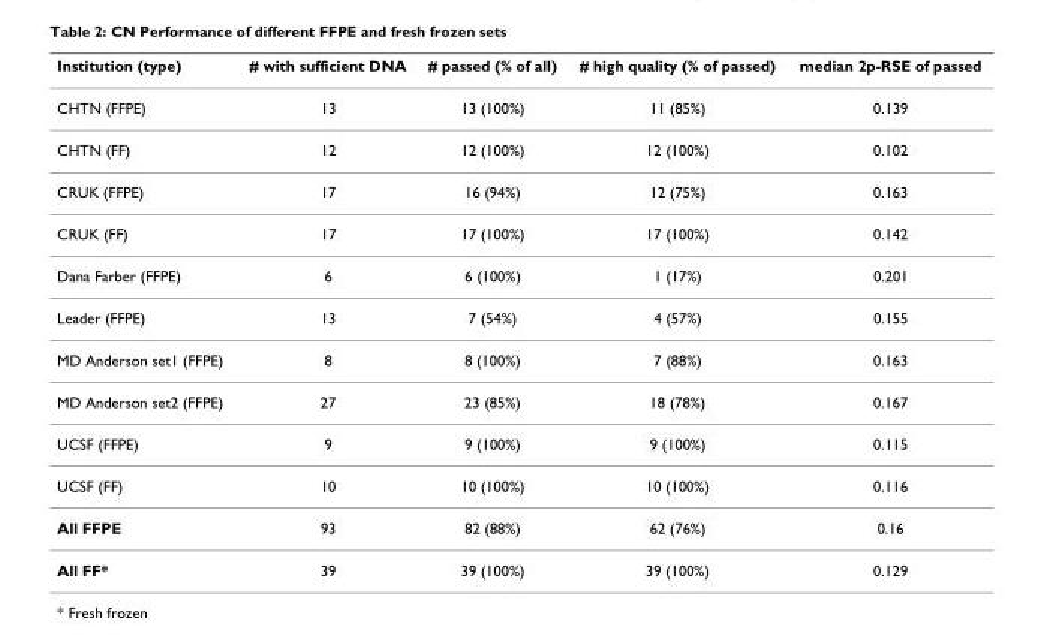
<table><thead><tr><td>Institution (type)</td><td># with sufficient DNA</td><td># passed (% of all)</td><td># high quality (% of passed)</td><td>median 2p-RSE of passed</td></tr></thead><tbody><tr><td>CHTN (FFPE)</td><td>13</td><td>13 (100%)</td><td>11 (85%)</td><td>0.139</td></tr><tr><td>CHTN (FF)</td><td>12</td><td>12 (100%)</td><td>12 (100%)</td><td>0.102</td></tr><tr><td>CRUK (FFPE)</td><td>17</td><td>16 (94%)</td><td>12 (75%)</td><td>0.163</td></tr><tr><td>CRUK (FF)</td><td>17</td><td>17 (100%)</td><td>17 (100%)</td><td>0.142</td></tr><tr><td>Dana Farber (FFPE)</td><td>6</td><td>6 (100%)</td><td>1 (17%)</td><td>0.201</td></tr><tr><td>Leader (FFPE)</td><td>13</td><td>7 (54%)</td><td>4 (57%)</td><td>0.155</td></tr><tr><td>MD Anderson set1 (FFPE)</td><td>8</td><td>8 (100%)</td><td>7 (88%)</td><td>0.163</td></tr><tr><td>MD Anderson set2 (FFPE)</td><td>27</td><td>23 (85%)</td><td>18 (78%)</td><td>0.167</td></tr><tr><td>UCSF (FFPE)</td><td>9</td><td>9 (100%)</td><td>9 (100%)</td><td>0.115</td></tr><tr><td>UCSF (FF)</td><td>10</td><td>10 (100%)</td><td>10 (100%)</td><td>0.116</td></tr><tr><td>All FFPE</td><td>93</td><td>82 (88%)</td><td>62 (76%)</td><td>0.16</td></tr><tr><td>All FF*</td><td>39</td><td>39 (100%)</td><td>39 (100%)</td><td>0.129</td></tr></tbody></table>